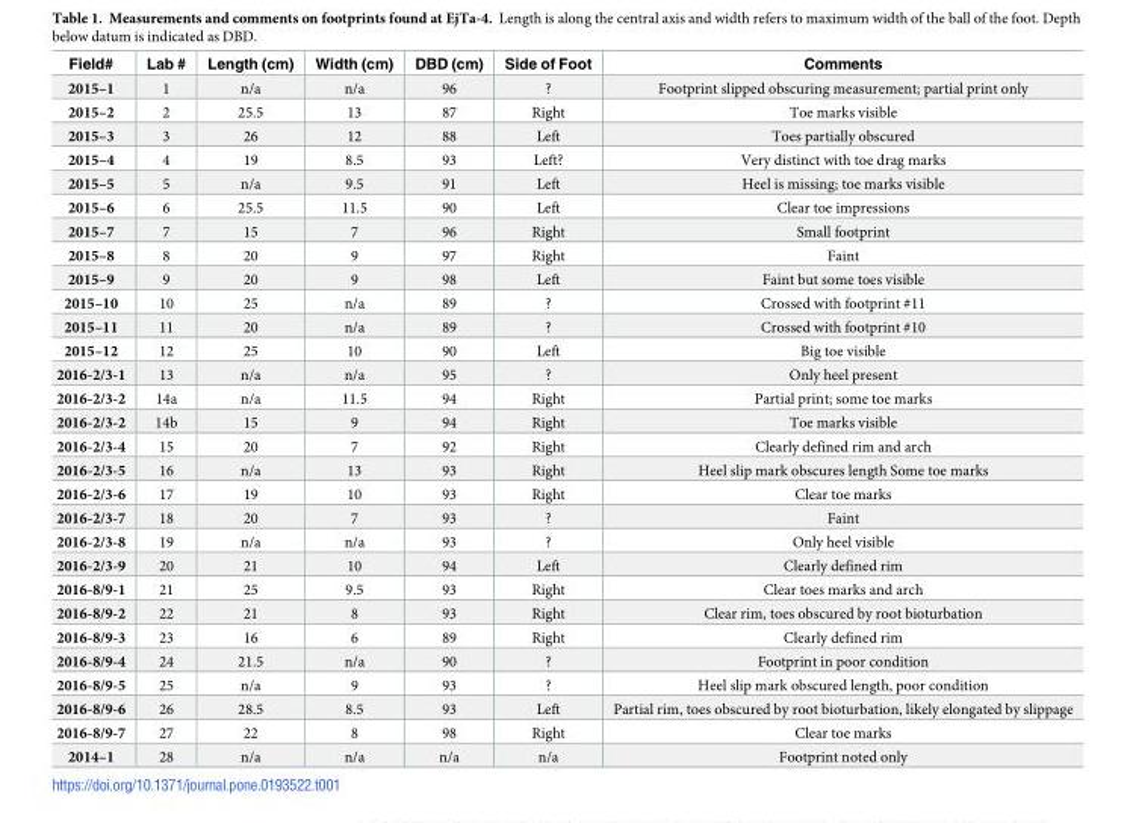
<table><thead><tr><td>Field#</td><td>Lab #</td><td>Length (cm)</td><td>Width (cm)</td><td>DBD (cm)</td><td>Side of Foot</td><td>Comments</td></tr></thead><tbody><tr><td>2015–1</td><td>1</td><td>n/a</td><td>n/a</td><td>96</td><td>?</td><td>Footprint slipped obscuring measurement; partial print only</td></tr><tr><td>2015–2</td><td>2</td><td>25.5</td><td>13</td><td>87</td><td>Right</td><td>Toe marks visible</td></tr><tr><td>2015–3</td><td>3</td><td>26</td><td>12</td><td>88</td><td>Left</td><td>Toes partially obscured</td></tr><tr><td>2015–4</td><td>4</td><td>19</td><td>8.5</td><td>93</td><td>Left?</td><td>Very distinct with toe drag marks</td></tr><tr><td>2015–5</td><td>5</td><td>n/a</td><td>9.5</td><td>91</td><td>Left</td><td>Heel is missing; toe marks visible</td></tr><tr><td>2015–6</td><td>6</td><td>25.5</td><td>11.5</td><td>90</td><td>Left</td><td>Clear toe impressions</td></tr><tr><td>2015–7</td><td>7</td><td>15</td><td>7</td><td>96</td><td>Right</td><td>Small footprint</td></tr><tr><td>2015–8</td><td>8</td><td>20</td><td>9</td><td>97</td><td>Right</td><td>Faint</td></tr><tr><td>2015–9</td><td>9</td><td>20</td><td>9</td><td>98</td><td>Left</td><td>Faint but some toes visible</td></tr><tr><td>2015–10</td><td>10</td><td>25</td><td>n/a</td><td>89</td><td>?</td><td>Crossed with footprint #11</td></tr><tr><td>2015–11</td><td>11</td><td>20</td><td>n/a</td><td>89</td><td>?</td><td>Crossed with footprint #10</td></tr><tr><td>2015–12</td><td>12</td><td>25</td><td>10</td><td>90</td><td>Left</td><td>Big toe visible</td></tr><tr><td>2016-2/3-1</td><td>13</td><td>n/a</td><td>n/a</td><td>95</td><td>?</td><td>Only heel present</td></tr><tr><td>2016-2/3-2</td><td>14a</td><td>n/a</td><td>11.5</td><td>94</td><td>Right</td><td>Partial print; some toe marks</td></tr><tr><td>2016-2/3-2</td><td>14b</td><td>15</td><td>9</td><td>94</td><td>Right</td><td>Toe marks visible</td></tr><tr><td>2016-2/3-4</td><td>15</td><td>20</td><td>7</td><td>92</td><td>Right</td><td>Clearly defined rim and arch</td></tr><tr><td>2016-2/3-5</td><td>16</td><td>n/a</td><td>13</td><td>93</td><td>Right</td><td>Heel slip mark obscures length Some toe marks</td></tr><tr><td>2016-2/3-6</td><td>17</td><td>19</td><td>10</td><td>93</td><td>Right</td><td>Clear toe marks</td></tr><tr><td>2016-2/3-7</td><td>18</td><td>20</td><td>7</td><td>93</td><td>?</td><td>Faint</td></tr><tr><td>2016-2/3-8</td><td>19</td><td>n/a</td><td>n/a</td><td>93</td><td>?</td><td>Only heel visible</td></tr><tr><td>2016-2/3-9</td><td>20</td><td>21</td><td>10</td><td>94</td><td>Left</td><td>Clearly defined rim</td></tr><tr><td>2016-8/9-1</td><td>21</td><td>25</td><td>9.5</td><td>93</td><td>Right</td><td>Clear toes marks and arch</td></tr><tr><td>2016-8/9-2</td><td>22</td><td>21</td><td>8</td><td>93</td><td>Right</td><td>Clear rim, toes obscured by root bioturbation</td></tr><tr><td>2016-8/9-3</td><td>23</td><td>16</td><td>6</td><td>89</td><td>Right</td><td>Clearly defined rim</td></tr><tr><td>2016-8/9-4</td><td>24</td><td>21.5</td><td>n/a</td><td>90</td><td>?</td><td>Footprint in poor condition</td></tr><tr><td>2016-8/9-5</td><td>25</td><td>n/a</td><td>9</td><td>93</td><td>?</td><td>Heel slip mark obscured length, poor condition</td></tr><tr><td>2016-8/9-6</td><td>26</td><td>28.5</td><td>8.5</td><td>93</td><td>Left</td><td>Partial rim, toes obscured by root bioturbation, likely elongated by slippage</td></tr><tr><td>2016-8/9-7</td><td>27</td><td>22</td><td>8</td><td>98</td><td>Right</td><td>Clear toe marks</td></tr><tr><td>2014–1</td><td>28</td><td>n/a</td><td>n/a</td><td>n/a</td><td>n/a</td><td>Footprint noted only</td></tr></tbody></table>